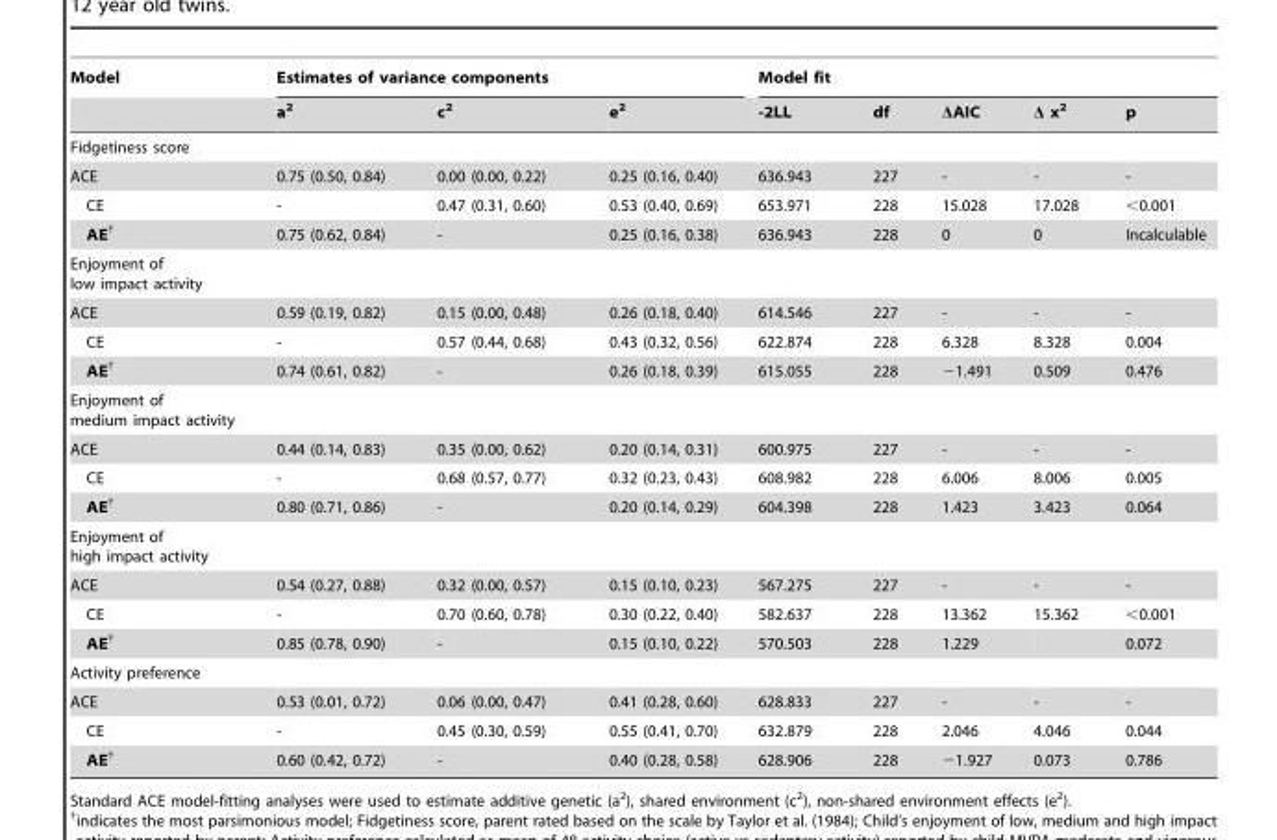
<table><thead><tr><td rowspan="2">Model</td><td colspan="3">Estimates of variance components</td><td colspan="5">Model fit</td></tr><tr><td>a<sup>2</sup></td><td>c<sup>2</sup></td><td>e<sup>2</sup></td><td>-2LL</td><td>df</td><td>ΔAIC</td><td>Δ x<sup>2</sup></td><td>p</td></tr></thead><tbody><tr><td colspan="9">Fidgetiness score</td></tr><tr><td>ACE</td><td>0.75 (0.50, 0.84)</td><td>0.00 (0.00, 0.22)</td><td>0.25 (0.16, 0.40)</td><td>636.943</td><td>227</td><td>-</td><td>-</td><td>-</td></tr><tr><td>CE</td><td>-</td><td>0.47 (0.31, 0.60)</td><td>0.53 (0.40, 0.69)</td><td>653.971</td><td>228</td><td>15.028</td><td>17.028</td><td>&lt;0.001</td></tr><tr><td>AE†</td><td>0.75 (0.62, 0.84)</td><td>-</td><td>0.25 (0.16, 0.38)</td><td>636.943</td><td>228</td><td>0</td><td>0</td><td>Incalculable</td></tr><tr><td colspan="9">Enjoyment of low impact activity</td></tr><tr><td>ACE</td><td>0.59 (0.19, 0.82)</td><td>0.15 (0.00, 0.48)</td><td>0.26 (0.18, 0.40)</td><td>614.546</td><td>227</td><td>-</td><td>-</td><td>-</td></tr><tr><td>CE</td><td>-</td><td>0.57 (0.44, 0.68)</td><td>0.43 (0.32, 0.56)</td><td>622.874</td><td>228</td><td>6.328</td><td>8.328</td><td>0.004</td></tr><tr><td>AE†</td><td>0.74 (0.61, 0.82)</td><td>-</td><td>0.26 (0.18, 0.39)</td><td>615.055</td><td>228</td><td>−1.491</td><td>0.509</td><td>0.476</td></tr><tr><td colspan="9">Enjoyment of medium impact activity</td></tr><tr><td>ACE</td><td>0.44 (0.14, 0.83)</td><td>0.35 (0.00, 0.62)</td><td>0.20 (0.14, 0.31)</td><td>600.975</td><td>227</td><td>-</td><td>-</td><td>-</td></tr><tr><td>CE</td><td>-</td><td>0.68 (0.57, 0.77)</td><td>0.32 (0.23, 0.43)</td><td>608.982</td><td>228</td><td>6.006</td><td>8.006</td><td>0.005</td></tr><tr><td>AE†</td><td>0.80 (0.71, 0.86)</td><td>-</td><td>0.20 (0.14, 0.29)</td><td>604.398</td><td>228</td><td>1.423</td><td>3.423</td><td>0.064</td></tr><tr><td colspan="9">Enjoyment of high impact activity</td></tr><tr><td>ACE</td><td>0.54 (0.27, 0.88)</td><td>0.32 (0.00, 0.57)</td><td>0.15 (0.10, 0.23)</td><td>567.275</td><td>227</td><td>-</td><td>-</td><td>-</td></tr><tr><td>CE</td><td>-</td><td>0.70 (0.60, 0.78)</td><td>0.30 (0.22, 0.40)</td><td>582.637</td><td>228</td><td>13.362</td><td>15.362</td><td>&lt;0.001</td></tr><tr><td>AE†</td><td>0.85 (0.78, 0.90)</td><td>-</td><td>0.15 (0.10, 0.22)</td><td>570.503</td><td>228</td><td>1.229</td><td></td><td>0.072</td></tr><tr><td colspan="9">Activity preference</td></tr><tr><td>ACE</td><td>0.53 (0.01, 0.72)</td><td>0.06 (0.00, 0.47)</td><td>0.41 (0.28, 0.60)</td><td>628.833</td><td>227</td><td>-</td><td>-</td><td>-</td></tr><tr><td>CE</td><td>-</td><td>0.45 (0.30, 0.59)</td><td>0.55 (0.41, 0.70)</td><td>632.879</td><td>228</td><td>2.046</td><td>4.046</td><td>0.044</td></tr><tr><td>AE†</td><td>0.60 (0.42, 0.72)</td><td>-</td><td>0.40 (0.28, 0.58)</td><td>628.906</td><td>228</td><td>−1.927</td><td>0.073</td><td>0.786</td></tr></tbody></table>